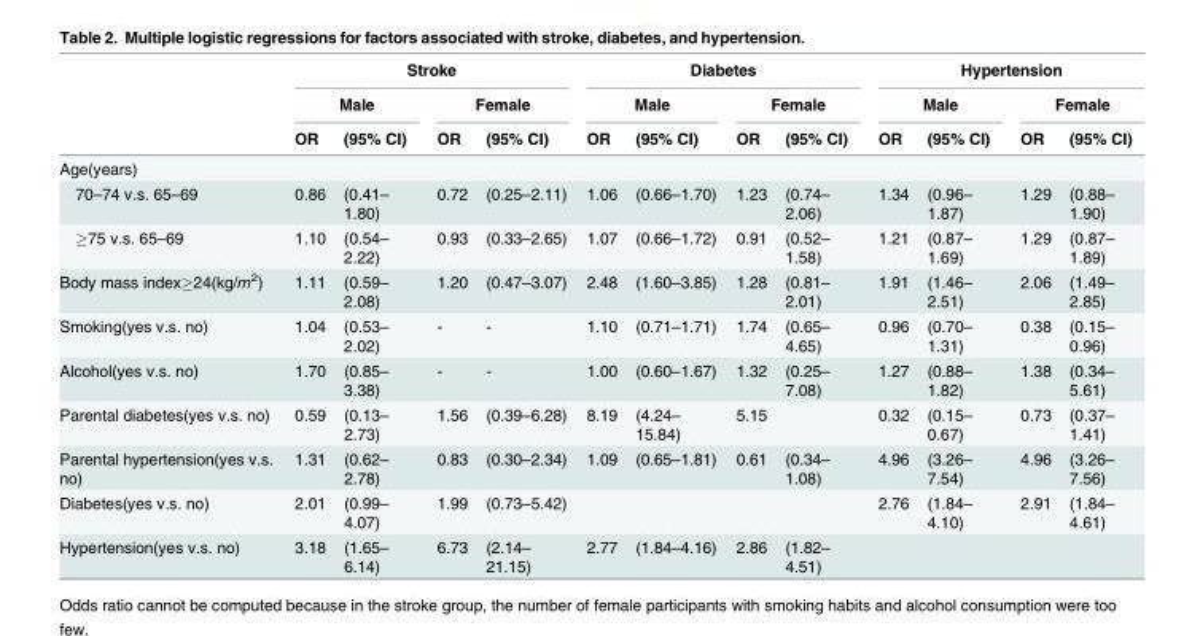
<table><thead><tr><td rowspan="3"></td><td colspan="4">Stroke</td><td colspan="4">Diabetes</td><td colspan="4">Hypertension</td></tr><tr><td colspan="2">Male</td><td colspan="2">Female</td><td colspan="2">Male</td><td colspan="2">Female</td><td colspan="2">Male</td><td colspan="2">Female</td></tr><tr><td>OR</td><td>(95% CI)</td><td>OR</td><td>(95% CI)</td><td>OR</td><td>(95% CI)</td><td>OR</td><td>(95% CI)</td><td>OR</td><td>(95% CI)</td><td>OR</td><td>(95% CI)</td></tr></thead><tbody><tr><td colspan="13">Age(years)</td></tr><tr><td>70–74 v.s. 65–69</td><td>0.86</td><td>(0.41– 1.80)</td><td>0.72</td><td>(0.25–2.11)</td><td>1.06</td><td>(0.66–1.70)</td><td>1.23</td><td>(0.74– 2.06)</td><td>1.34</td><td>(0.96– 1.87)</td><td>1.29</td><td>(0.88– 1.90)</td></tr><tr><td>≥75 v.s. 65–69</td><td>1.10</td><td>(0.54– 2.22)</td><td>0.93</td><td>(0.33–2.65)</td><td>1.07</td><td>(0.66–1.72)</td><td>0.91</td><td>(0.52– 1.58)</td><td>1.21</td><td>(0.87– 1.69)</td><td>1.29</td><td>(0.87– 1.89)</td></tr><tr><td>Body mass index≥24(kg/m<sup>2</sup>)</td><td>1.11</td><td>(0.59– 2.08)</td><td>1.20</td><td>(0.47–3.07)</td><td>2.48</td><td>(1.60–3.85)</td><td>1.28</td><td>(0.81– 2.01)</td><td>1.91</td><td>(1.46– 2.51)</td><td>2.06</td><td>(1.49– 2.85)</td></tr><tr><td>Smoking(yes v.s. no)</td><td>1.04</td><td>(0.53– 2.02)</td><td>-</td><td>-</td><td>1.10</td><td>(0.71–1.71)</td><td>1.74</td><td>(0.65– 4.65)</td><td>0.96</td><td>(0.70– 1.31)</td><td>0.38</td><td>(0.15– 0.96)</td></tr><tr><td>Alcohol(yes v.s. no)</td><td>1.70</td><td>(0.85– 3.38)</td><td>-</td><td>-</td><td>1.00</td><td>(0.60–1.67)</td><td>1.32</td><td>(0.25– 7.08)</td><td>1.27</td><td>(0.88– 1.82)</td><td>1.38</td><td>(0.34– 5.61)</td></tr><tr><td>Parental diabetes(yes v.s. no)</td><td>0.59</td><td>(0.13– 2.73)</td><td>1.56</td><td>(0.39–6.28)</td><td>8.19</td><td>(4.24– 15.84)</td><td>5.15</td><td></td><td>0.32</td><td>(0.15– 0.67)</td><td>0.73</td><td>(0.37– 1.41)</td></tr><tr><td>Parental hypertension(yes v.s. no)</td><td>1.31</td><td>(0.62– 2.78)</td><td>0.83</td><td>(0.30–2.34)</td><td>1.09</td><td>(0.65–1.81)</td><td>0.61</td><td>(0.34– 1.08)</td><td>4.96</td><td>(3.26– 7.54)</td><td>4.96</td><td>(3.26– 7.56)</td></tr><tr><td>Diabetes(yes v.s. no)</td><td>2.01</td><td>(0.99– 4.07)</td><td>1.99</td><td>(0.73–5.42)</td><td></td><td></td><td></td><td></td><td>2.76</td><td>(1.84– 4.10)</td><td>2.91</td><td>(1.84– 4.61)</td></tr><tr><td>Hypertension(yes v.s. no)</td><td>3.18</td><td>(1.65– 6.14)</td><td>6.73</td><td>(2.14– 21.15)</td><td>2.77</td><td>(1.84–4.16)</td><td>2.86</td><td>(1.82– 4.51)</td><td></td><td></td><td></td><td></td></tr></tbody></table>